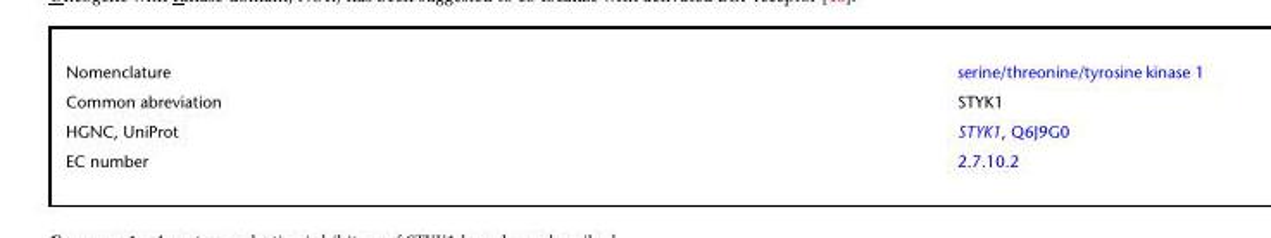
<table><tbody><tr><td>Nomenclature</td><td>serine/threonine/tyrosine kinase 1</td></tr><tr><td>Common abreviation</td><td>STYK1</td></tr><tr><td>HGNC, UniProt</td><td>STYK1, Q6J9G0</td></tr><tr><td>EC number</td><td>2.7.10.2</td></tr></tbody></table>